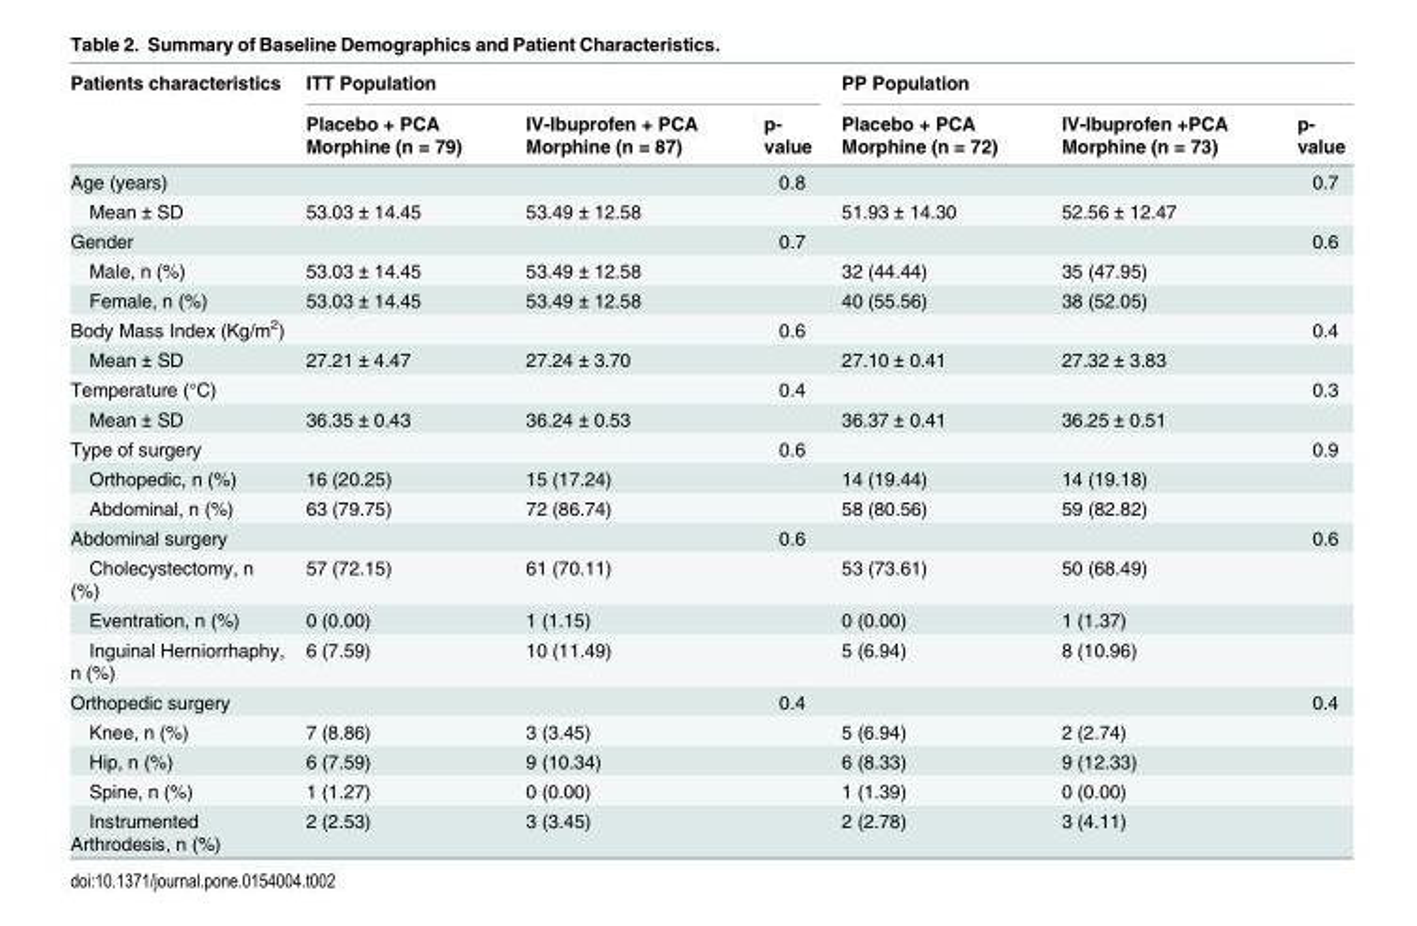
<table><thead><tr><td rowspan="2">Patients characteristics</td><td colspan="3">ITT Population</td><td colspan="3">PP Population</td></tr><tr><td>Placebo + PCA Morphine (n = 79)</td><td>IV-Ibuprofen + PCA Morphine (n = 87)</td><td>p- value</td><td>Placebo + PCA Morphine (n = 72)</td><td>IV-Ibuprofen +PCA Morphine (n = 73)</td><td>p- value</td></tr></thead><tbody><tr><td>Age (years)</td><td></td><td></td><td>0.8</td><td></td><td></td><td>0.7</td></tr><tr><td>Mean ± SD</td><td>53.03 ± 14.45</td><td>53.49 ± 12.58</td><td></td><td>51.93 ± 14.30</td><td>52.56 ± 12.47</td><td></td></tr><tr><td>Gender</td><td></td><td></td><td>0.7</td><td></td><td></td><td>0.6</td></tr><tr><td>Male, n (%)</td><td>53.03 ± 14.45</td><td>53.49 ± 12.58</td><td></td><td>32 (44.44)</td><td>35 (47.95)</td><td></td></tr><tr><td>Female, n (%)</td><td>53.03 ± 14.45</td><td>53.49 ± 12.58</td><td></td><td>40 (55.56)</td><td>38 (52.05)</td><td></td></tr><tr><td>Body Mass Index (Kg/m<sup>2</sup>)</td><td></td><td></td><td>0.6</td><td></td><td></td><td>0.4</td></tr><tr><td>Mean ± SD</td><td>27.21 ± 4.47</td><td>27.24 ± 3.70</td><td></td><td>27.10 ± 0.41</td><td>27.32 ± 3.83</td><td></td></tr><tr><td>Temperature (°C)</td><td></td><td></td><td>0.4</td><td></td><td></td><td>0.3</td></tr><tr><td>Mean ± SD</td><td>36.35 ± 0.43</td><td>36.24 ± 0.53</td><td></td><td>36.37 ± 0.41</td><td>36.25 ± 0.51</td><td></td></tr><tr><td>Type of surgery</td><td></td><td></td><td>0.6</td><td></td><td></td><td>0.9</td></tr><tr><td>Orthopedic, n (%)</td><td>16 (20.25)</td><td>15 (17.24)</td><td></td><td>14 (19.44)</td><td>14 (19.18)</td><td></td></tr><tr><td>Abdominal, n (%)</td><td>63 (79.75)</td><td>72 (86.74)</td><td></td><td>58 (80.56)</td><td>59 (82.82)</td><td></td></tr><tr><td>Abdominal surgery</td><td></td><td></td><td>0.6</td><td></td><td></td><td>0.6</td></tr><tr><td>Cholecystectomy, n (%)</td><td>57 (72.15)</td><td>61 (70.11)</td><td></td><td>53 (73.61)</td><td>50 (68.49)</td><td></td></tr><tr><td>Eventration, n (%)</td><td>0 (0.00)</td><td>1 (1.15)</td><td></td><td>0 (0.00)</td><td>1 (1.37)</td><td></td></tr><tr><td>Inguinal Herniorrhaphy, n (%)</td><td>6 (7.59)</td><td>10 (11.49)</td><td></td><td>5 (6.94)</td><td>8 (10.96)</td><td></td></tr><tr><td>Orthopedic surgery</td><td></td><td></td><td>0.4</td><td></td><td></td><td>0.4</td></tr><tr><td>Knee, n (%)</td><td>7 (8.86)</td><td>3 (3.45)</td><td></td><td>5 (6.94)</td><td>2 (2.74)</td><td></td></tr><tr><td>Hip, n (%)</td><td>6 (7.59)</td><td>9 (10.34)</td><td></td><td>6 (8.33)</td><td>9 (12.33)</td><td></td></tr><tr><td>Spine, n (%)</td><td>1 (1.27)</td><td>0 (0.00)</td><td></td><td>1 (1.39)</td><td>0 (0.00)</td><td></td></tr><tr><td>Instrumented Arthrodesis, n (%)</td><td>2 (2.53)</td><td>3 (3.45)</td><td></td><td>2 (2.78)</td><td>3 (4.11)</td><td></td></tr></tbody></table>